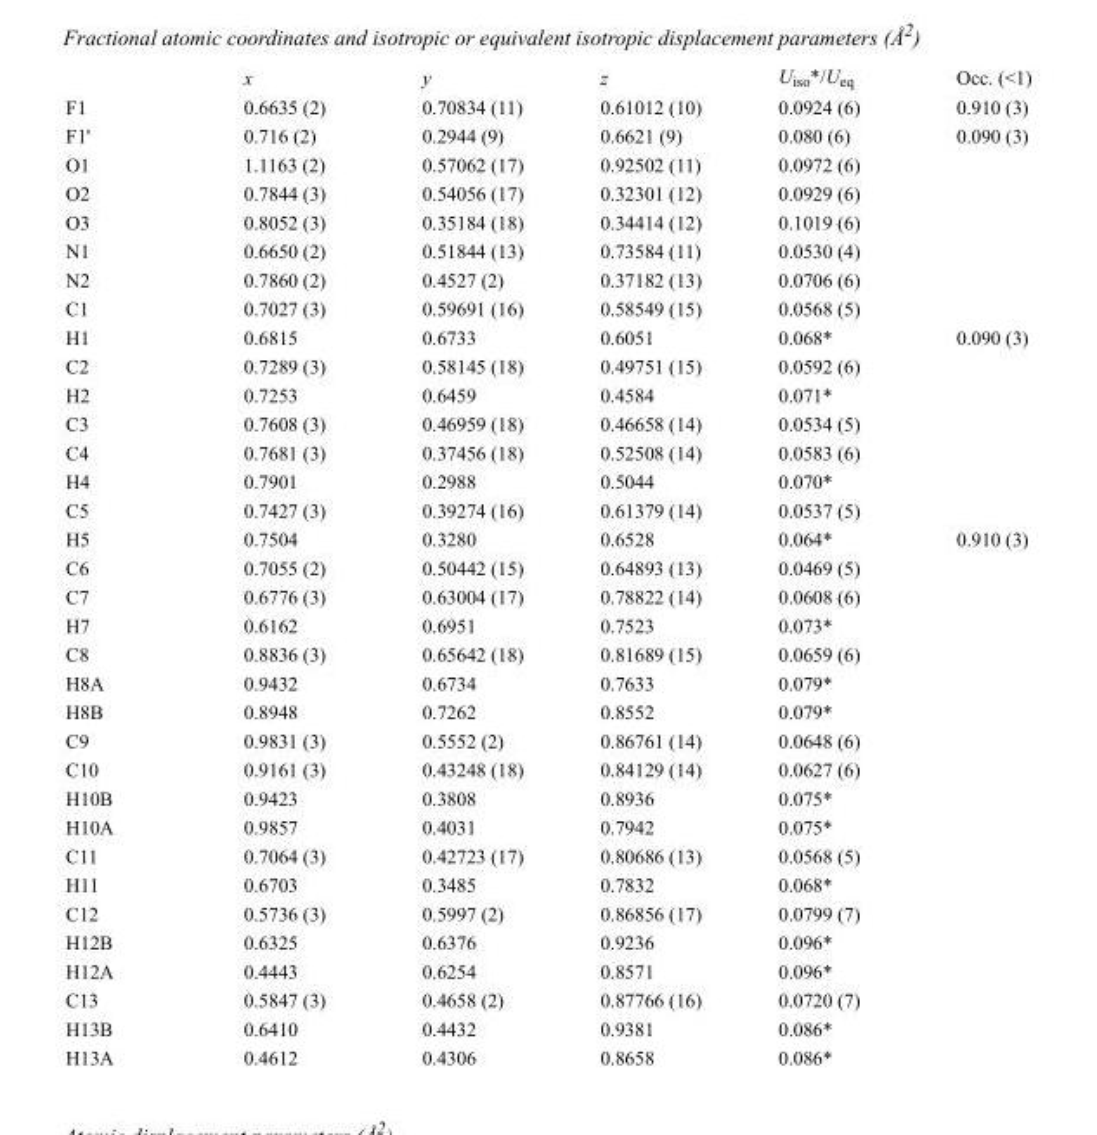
<table><thead><tr><td></td><td>x</td><td>y</td><td>z</td><td>U<sub>iso</sub>*/U<sub>eq</sub></td><td>Occ. (&lt;1)</td></tr></thead><tbody><tr><td>F1</td><td>0.6635 (2)</td><td>0.70834 (11)</td><td>0.61012 (10)</td><td>0.0924 (6)</td><td>0.910 (3)</td></tr><tr><td>F1&#x27;</td><td>0.716 (2)</td><td>0.2944 (9)</td><td>0.6621 (9)</td><td>0.080 (6)</td><td>0.090 (3)</td></tr><tr><td>O1</td><td>1.1163 (2)</td><td>0.57062 (17)</td><td>0.92502 (11)</td><td>0.0972 (6)</td><td></td></tr><tr><td>O2</td><td>0.7844 (3)</td><td>0.54056 (17)</td><td>0.32301 (12)</td><td>0.0929 (6)</td><td></td></tr><tr><td>O3</td><td>0.8052 (3)</td><td>0.35184 (18)</td><td>0.34414 (12)</td><td>0.1019 (6)</td><td></td></tr><tr><td>N1</td><td>0.6650 (2)</td><td>0.51844 (13)</td><td>0.73584 (11)</td><td>0.0530 (4)</td><td></td></tr><tr><td>N2</td><td>0.7860 (2)</td><td>0.4527 (2)</td><td>0.37182 (13)</td><td>0.0706 (6)</td><td></td></tr><tr><td>C1</td><td>0.7027 (3)</td><td>0.59691 (16)</td><td>0.58549 (15)</td><td>0.0568 (5)</td><td></td></tr><tr><td>H1</td><td>0.6815</td><td>0.6733</td><td>0.6051</td><td>0.068*</td><td>0.090 (3)</td></tr><tr><td>C2</td><td>0.7289 (3)</td><td>0.58145 (18)</td><td>0.49751 (15)</td><td>0.0592 (6)</td><td></td></tr><tr><td>H2</td><td>0.7253</td><td>0.6459</td><td>0.4584</td><td>0.071*</td><td></td></tr><tr><td>C3</td><td>0.7608 (3)</td><td>0.46959 (18)</td><td>0.46658 (14)</td><td>0.0534 (5)</td><td></td></tr><tr><td>C4</td><td>0.7681 (3)</td><td>0.37456 (18)</td><td>0.52508 (14)</td><td>0.0583 (6)</td><td></td></tr><tr><td>H4</td><td>0.7901</td><td>0.2988</td><td>0.5044</td><td>0.070*</td><td></td></tr><tr><td>C5</td><td>0.7427 (3)</td><td>0.39274 (16)</td><td>0.61379 (14)</td><td>0.0537 (5)</td><td></td></tr><tr><td>H5</td><td>0.7504</td><td>0.3280</td><td>0.6528</td><td>0.064*</td><td>0.910 (3)</td></tr><tr><td>C6</td><td>0.7055 (2)</td><td>0.50442 (15)</td><td>0.64893 (13)</td><td>0.0469 (5)</td><td></td></tr><tr><td>C7</td><td>0.6776 (3)</td><td>0.63004 (17)</td><td>0.78822 (14)</td><td>0.0608 (6)</td><td></td></tr><tr><td>H7</td><td>0.6162</td><td>0.6951</td><td>0.7523</td><td>0.073*</td><td></td></tr><tr><td>C8</td><td>0.8836 (3)</td><td>0.65642 (18)</td><td>0.81689 (15)</td><td>0.0659 (6)</td><td></td></tr><tr><td>H8A</td><td>0.9432</td><td>0.6734</td><td>0.7633</td><td>0.079*</td><td></td></tr><tr><td>H8B</td><td>0.8948</td><td>0.7262</td><td>0.8552</td><td>0.079*</td><td></td></tr><tr><td>C9</td><td>0.9831 (3)</td><td>0.5552 (2)</td><td>0.86761 (14)</td><td>0.0648 (6)</td><td></td></tr><tr><td>C10</td><td>0.9161 (3)</td><td>0.43248 (18)</td><td>0.84129 (14)</td><td>0.0627 (6)</td><td></td></tr><tr><td>H10B</td><td>0.9423</td><td>0.3808</td><td>0.8936</td><td>0.075*</td><td></td></tr><tr><td>H10A</td><td>0.9857</td><td>0.4031</td><td>0.7942</td><td>0.075*</td><td></td></tr><tr><td>C11</td><td>0.7064 (3)</td><td>0.42723 (17)</td><td>0.80686 (13)</td><td>0.0568 (5)</td><td></td></tr><tr><td>H11</td><td>0.6703</td><td>0.3485</td><td>0.7832</td><td>0.068*</td><td></td></tr><tr><td>C12</td><td>0.5736 (3)</td><td>0.5997 (2)</td><td>0.86856 (17)</td><td>0.0799 (7)</td><td></td></tr><tr><td>H12B</td><td>0.6325</td><td>0.6376</td><td>0.9236</td><td>0.096*</td><td></td></tr><tr><td>H12A</td><td>0.4443</td><td>0.6254</td><td>0.8571</td><td>0.096*</td><td></td></tr><tr><td>C13</td><td>0.5847 (3)</td><td>0.4658 (2)</td><td>0.87766 (16)</td><td>0.0720 (7)</td><td></td></tr><tr><td>H13B</td><td>0.6410</td><td>0.4432</td><td>0.9381</td><td>0.086*</td><td></td></tr><tr><td>H13A</td><td>0.4612</td><td>0.4306</td><td>0.8658</td><td>0.086*</td><td></td></tr></tbody></table>